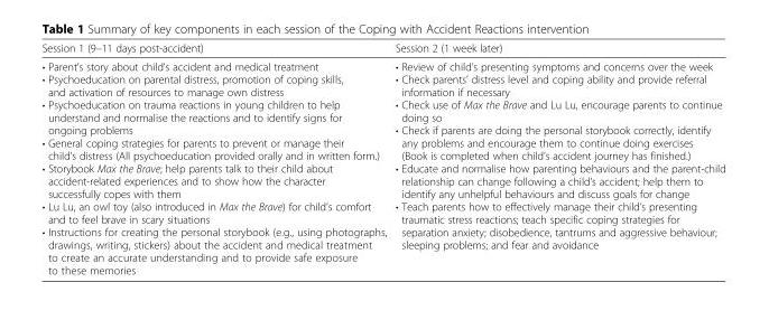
<table><thead><tr><td>Session 1 (9–11 days post-accident)</td><td>Session 2 (1 week later)</td></tr></thead><tbody><tr><td>• Parent’s story about child’s accident and medical treatment • Psychoeducation on parental distress, promotion of coping skills, and activation of resources to manage own distress • Psychoeducation on trauma reactions in young children to help understand and normalise the reactions and to identify signs for ongoing problems • General coping strategies for parents to prevent or manage their child’s distress (All psychoeducation provided orally and in written form.) • Storybook Max the Brave; help parents talk to their child about accident-related experiences and to show how the character successfully copes with them • Lu Lu, an owl toy (also introduced in Max the Brave) for child’s comfort and to feel brave in scary situations • Instructions for creating the personal storybook (e.g., using photographs, drawings, writing, stickers) about the accident and medical treatment to create an accurate understanding and to provide safe exposure to these memories</td><td>• Review of child’s presenting symptoms and concerns over the week • Check parents’ distress level and coping ability and provide referral information if necessary • Check use of Max the Brave and Lu Lu, encourage parents to continue doing so • Check if parents are doing the personal storybook correctly, identify any problems and encourage them to continue doing exercises (Book is completed when child’s accident journey has finished.) • Educate and normalise how parenting behaviours and the parent-child relationship can change following a child’s accident; help them to identify any unhelpful behaviours and discuss goals for change • Teach parents how to effectively manage their child’s presenting traumatic stress reactions; teach specific coping strategies for separation anxiety; disobedience, tantrums and aggressive behaviour; sleeping problems; and fear and avoidance</td></tr></tbody></table>